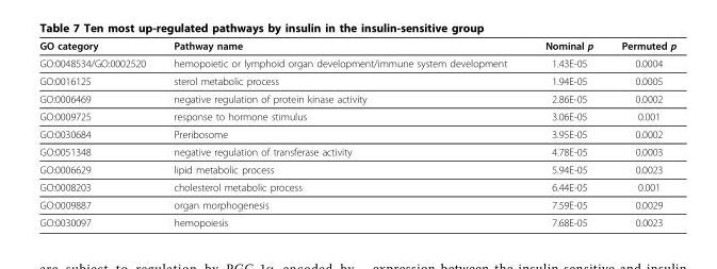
<table><thead><tr><td>GO category</td><td>Pathway name</td><td>Nominal p</td><td>Permuted p</td></tr></thead><tbody><tr><td>GO:0048534/GO:0002520</td><td>hemopoietic or lymphoid organ development/immune system development</td><td>1.43E-05</td><td>0.0004</td></tr><tr><td>GO:0016125</td><td>sterol metabolic process</td><td>1.94E-05</td><td>0.0005</td></tr><tr><td>GO:0006469</td><td>negative regulation of protein kinase activity</td><td>2.86E-05</td><td>0.0002</td></tr><tr><td>GO:0009725</td><td>response to hormone stimulus</td><td>3.06E-05</td><td>0.001</td></tr><tr><td>GO:0030684</td><td>Preribosome</td><td>3.95E-05</td><td>0.0002</td></tr><tr><td>GO:0051348</td><td>negative regulation of transferase activity</td><td>4.78E-05</td><td>0.0003</td></tr><tr><td>GO:0006629</td><td>lipid metabolic process</td><td>5.94E-05</td><td>0.0023</td></tr><tr><td>GO:0008203</td><td>cholesterol metabolic process</td><td>6.44E-05</td><td>0.001</td></tr><tr><td>GO:0009887</td><td>organ morphogenesis</td><td>7.59E-05</td><td>0.0029</td></tr><tr><td>GO:0030097</td><td>hemopoiesis</td><td>7.68E-05</td><td>0.0023</td></tr></tbody></table>